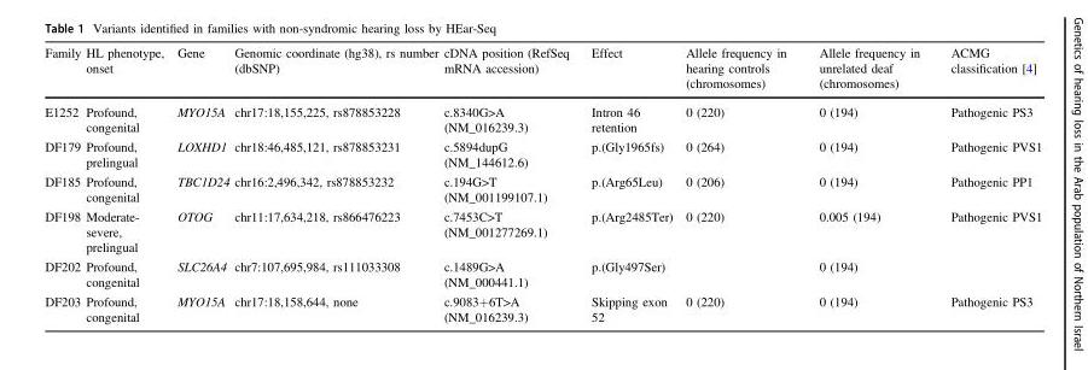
<table><thead><tr><td>Family</td><td>HL phenotype, onset</td><td>Gene</td><td>Genomic coordinate (hg38), rs number (dbSNP)</td><td>cDNA position (RefSeq mRNA accession)</td><td>Effect</td><td>Allele frequency in hearing controls (chromosomes)</td><td>Allele frequency in unrelated deaf (chromosomes)</td><td>ACMG classification [4]</td></tr></thead><tbody><tr><td>E1252</td><td>Profound, congenital</td><td>MYO15A</td><td>chr17:18,155,225, rs878853228</td><td>c.8340G&gt;A (NM_016239.3)</td><td>Intron 46 retention</td><td>0 (220)</td><td>0 (194)</td><td>Pathogenic PS3</td></tr><tr><td>DF179</td><td>Profound, prelingual</td><td>LOXHD1</td><td>chr18:46,485,121, rs878853231</td><td>c.5894dupG (NM_144612.6)</td><td>p.(Gly1965fs)</td><td>0 (264)</td><td>0 (194)</td><td>Pathogenic PVS1</td></tr><tr><td>DF185</td><td>Profound, congenital</td><td>TBC1D24</td><td>chr16:2,496,342, rs878853232</td><td>c.194G&gt;T (NM_001199107.1)</td><td>p.(Arg65Leu)</td><td>0 (206)</td><td>0 (194)</td><td>Pathogenic PP1</td></tr><tr><td>DF198</td><td>Moderate- severe, prelingual</td><td>OTOG</td><td>chr11:17,634,218, rs866476223</td><td>c.7453C&gt;T (NM_001277269.1)</td><td>p.(Arg2485Ter)</td><td>0 (220)</td><td>0.005 (194)</td><td>Pathogenic PVS1</td></tr><tr><td>DF202</td><td>Profound, congenital</td><td>SLC26A4</td><td>chr7:107,695,984, rs111033308</td><td>c.1489G&gt;A (NM_000441.1)</td><td>p.(Gly497Ser)</td><td></td><td>0 (194)</td><td></td></tr><tr><td>DF203</td><td>Profound, congenital</td><td>MYO15A</td><td>chr17:18,158,644, none</td><td>c.9083+6T&gt;A (NM_016239.3)</td><td>Skipping exon 52</td><td>0 (220)</td><td>0 (194)</td><td>Pathogenic PS3</td></tr></tbody></table>